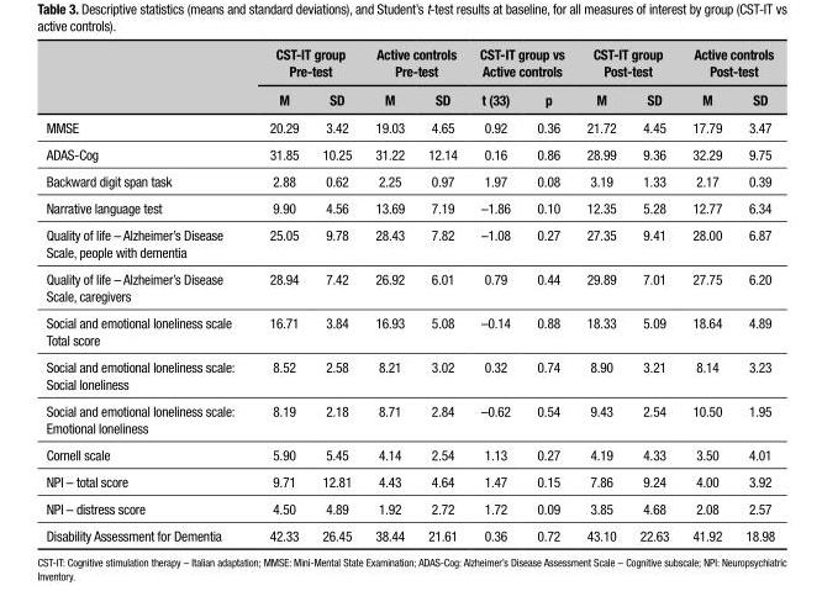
<table><thead><tr><td rowspan="2"></td><td colspan="2">CST-IT group Pre-test</td><td colspan="2">Active controls Pre-test</td><td colspan="2">CST-IT group vs Active controls</td><td colspan="2">CST-IT group Post-test</td><td colspan="2">Active controls Post-test</td></tr><tr><td>M</td><td>SD</td><td>M</td><td>SD</td><td>t (33)</td><td>p</td><td>M</td><td>SD</td><td>M</td><td>SD</td></tr></thead><tbody><tr><td>MMSE</td><td>20.29</td><td>3.42</td><td>19.03</td><td>4.65</td><td>0.92</td><td>0.36</td><td>21.72</td><td>4.45</td><td>17.79</td><td>3.47</td></tr><tr><td>ADAS-Cog</td><td>31.85</td><td>10.25</td><td>31.22</td><td>12.14</td><td>0.16</td><td>0.86</td><td>28.99</td><td>9.36</td><td>32.29</td><td>9.75</td></tr><tr><td>Backward digit span task</td><td>2.88</td><td>0.62</td><td>2.25</td><td>0.97</td><td>1.97</td><td>0.08</td><td>3.19</td><td>1.33</td><td>2.17</td><td>0.39</td></tr><tr><td>Narrative language test</td><td>9.90</td><td>4.56</td><td>13.69</td><td>7.19</td><td>–1.86</td><td>0.10</td><td>12.35</td><td>5.28</td><td>12.77</td><td>6.34</td></tr><tr><td>Quality of life – Alzheimer’s Disease Scale, people with dementia</td><td>25.05</td><td>9.78</td><td>28.43</td><td>7.82</td><td>–1.08</td><td>0.27</td><td>27.35</td><td>9.41</td><td>28.00</td><td>6.87</td></tr><tr><td>Quality of life – Alzheimer’s Disease Scale, caregivers</td><td>28.94</td><td>7.42</td><td>26.92</td><td>6.01</td><td>0.79</td><td>0.44</td><td>29.89</td><td>7.01</td><td>27.75</td><td>6.20</td></tr><tr><td>Social and emotional loneliness scale Total score</td><td>16.71</td><td>3.84</td><td>16.93</td><td>5.08</td><td>–0.14</td><td>0.88</td><td>18.33</td><td>5.09</td><td>18.64</td><td>4.89</td></tr><tr><td>Social and emotional loneliness scale: Social loneliness</td><td>8.52</td><td>2.58</td><td>8.21</td><td>3.02</td><td>0.32</td><td>0.74</td><td>8.90</td><td>3.21</td><td>8.14</td><td>3.23</td></tr><tr><td>Social and emotional loneliness scale: Emotional loneliness</td><td>8.19</td><td>2.18</td><td>8.71</td><td>2.84</td><td>–0.62</td><td>0.54</td><td>9.43</td><td>2.54</td><td>10.50</td><td>1.95</td></tr><tr><td>Cornell scale</td><td>5.90</td><td>5.45</td><td>4.14</td><td>2.54</td><td>1.13</td><td>0.27</td><td>4.19</td><td>4.33</td><td>3.50</td><td>4.01</td></tr><tr><td>NPI – total score</td><td>9.71</td><td>12.81</td><td>4.43</td><td>4.64</td><td>1.47</td><td>0.15</td><td>7.86</td><td>9.24</td><td>4.00</td><td>3.92</td></tr><tr><td>NPI – distress score</td><td>4.50</td><td>4.89</td><td>1.92</td><td>2.72</td><td>1.72</td><td>0.09</td><td>3.85</td><td>4.68</td><td>2.08</td><td>2.57</td></tr><tr><td>Disability Assessment for Dementia</td><td>42.33</td><td>26.45</td><td>38.44</td><td>21.61</td><td>0.36</td><td>0.72</td><td>43.10</td><td>22.63</td><td>41.92</td><td>18.98</td></tr></tbody></table>